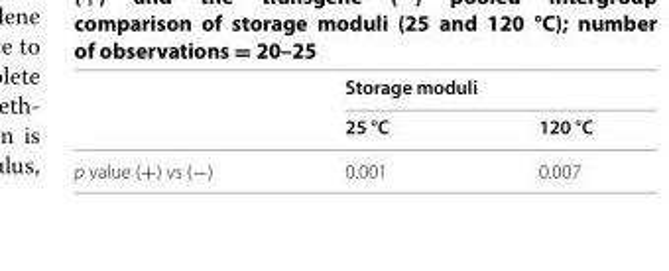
<table><thead><tr><td rowspan="2"></td><td colspan="2">Storage moduli</td></tr><tr><td>25 °C</td><td>120 °C</td></tr></thead><tbody><tr><td>p value (+) vs (−)</td><td>0.001</td><td>0.007</td></tr></tbody></table>